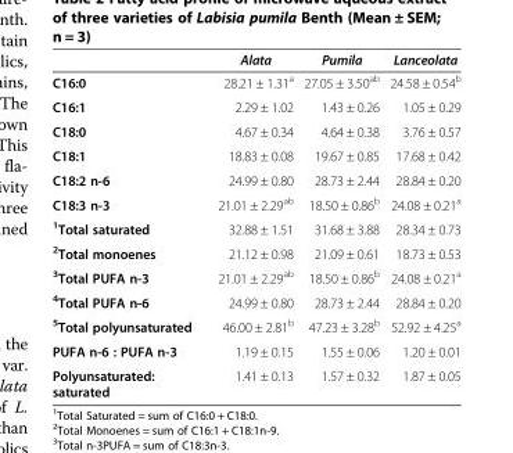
<table><thead><tr><td></td><td>Alata</td><td>Pumila</td><td>Lanceolata</td></tr></thead><tbody><tr><td>C16:0</td><td>28.21 ± 1.31<sup>a</sup></td><td>27.05 ± 3.50<sup>ab</sup></td><td>24.58 ± 0.54<sup>b</sup></td></tr><tr><td>C16:1</td><td>2.29 ± 1.02</td><td>1.43 ± 0.26</td><td>1.05 ± 0.29</td></tr><tr><td>C18:0</td><td>4.67 ± 0.34</td><td>4.64 ± 0.38</td><td>3.76 ± 0.57</td></tr><tr><td>C18:1</td><td>18.83 ± 0.08</td><td>19.67 ± 0.85</td><td>17.68 ± 0.42</td></tr><tr><td>C18:2 n-6</td><td>24.99 ± 0.80</td><td>28.73 ± 2.44</td><td>28.84 ± 0.20</td></tr><tr><td>C18:3 n-3</td><td>21.01 ± 2.29<sup>ab</sup></td><td>18.50 ± 0.86<sup>b</sup></td><td>24.08 ± 0.21<sup>a</sup></td></tr><tr><td><sup>1</sup>Total saturated</td><td>32.88 ± 1.51</td><td>31.68 ± 3.88</td><td>28.34 ± 0.73</td></tr><tr><td><sup>2</sup>Total monoenes</td><td>21.12 ± 0.98</td><td>21.09 ± 0.61</td><td>18.73 ± 0.53</td></tr><tr><td><sup>3</sup>Total PUFA n-3</td><td>21.01 ± 2.29<sup>ab</sup></td><td>18.50 ± 0.86<sup>b</sup></td><td>24.08 ± 0.21<sup>a</sup></td></tr><tr><td><sup>4</sup>Total PUFA n-6</td><td>24.99 ± 0.80</td><td>28.73 ± 2.44</td><td>28.84 ± 0.20</td></tr><tr><td><sup>5</sup>Total polyunsaturated</td><td>46.00 ± 2.81<sup>b</sup></td><td>47.23 ± 3.28<sup>b</sup></td><td>52.92 ± 4.25<sup>a</sup></td></tr><tr><td>PUFA n-6 : PUFA n-3</td><td>1.19 ± 0.15</td><td>1.55 ± 0.06</td><td>1.20 ± 0.01</td></tr><tr><td>Polyunsaturated: saturated</td><td>1.41 ± 0.13</td><td>1.57 ± 0.32</td><td>1.87 ± 0.05</td></tr></tbody></table>